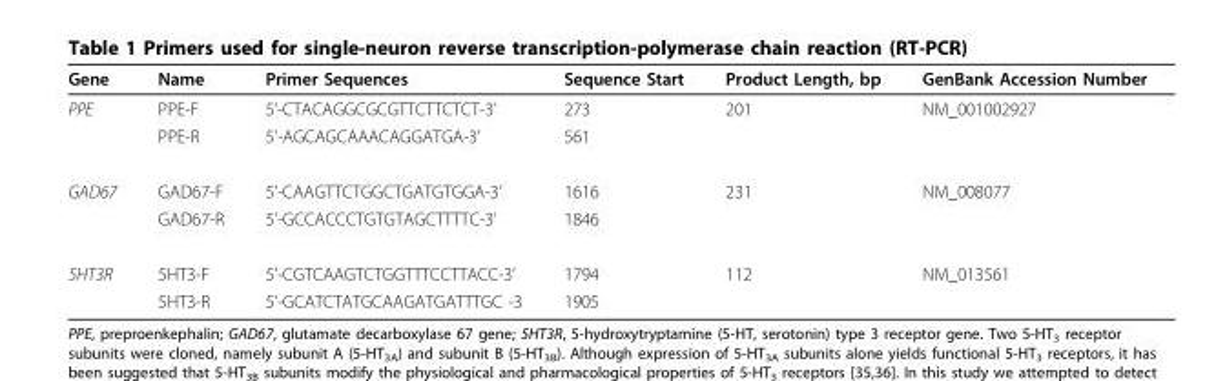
<table><thead><tr><td>Gene</td><td>Name</td><td>Primer Sequences</td><td>Sequence Start</td><td>Product Length, bp</td><td>GenBank Accession Number</td></tr></thead><tbody><tr><td rowspan="2">PPE</td><td>PPE-F</td><td>5’-CTACAGGCGCGTTCTTCTCT-3’</td><td>273</td><td>201</td><td>NM_001002927</td></tr><tr><td>PPE-R</td><td>5’-AGCAGCAAACAGGATGA-3’</td><td>561</td><td></td><td></td></tr><tr><td rowspan="2">GAD67</td><td>GAD67-F</td><td>5’-CAAGTTCTGGCTGATGTGGA-3’</td><td>1616</td><td>231</td><td>NM_008077</td></tr><tr><td>GAD67-R</td><td>5’-GCCACCCTGTGTAGCTTTTC-3’</td><td>1846</td><td></td><td></td></tr><tr><td rowspan="2">5HT3R</td><td>5HT3-F</td><td>5’-CGTCAAGTCTGGTTTCCTTACC-3’</td><td>1794</td><td>112</td><td>NM_013561</td></tr><tr><td>5HT3-R</td><td>5’-GCATCTATGCAAGATGATTTGC -3</td><td>1905</td><td></td><td></td></tr></tbody></table>